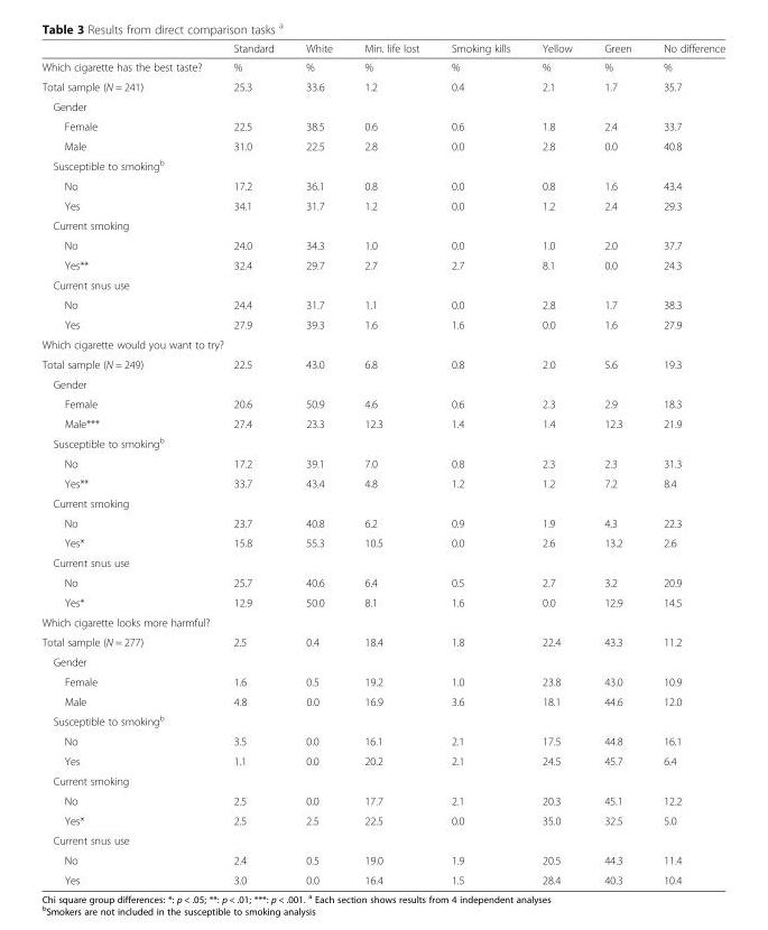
<table><thead><tr><td></td><td>Standard</td><td>White</td><td>Min. life lost</td><td>Smoking kills</td><td>Yellow</td><td>Green</td><td>No difference</td></tr></thead><tbody><tr><td>Which cigarette has the best taste?</td><td>%</td><td>%</td><td>%</td><td>%</td><td>%</td><td>%</td><td>%</td></tr><tr><td>Total sample (N = 241)</td><td>25.3</td><td>33.6</td><td>1.2</td><td>0.4</td><td>2.1</td><td>1.7</td><td>35.7</td></tr><tr><td colspan="8">Gender</td></tr><tr><td>Female</td><td>22.5</td><td>38.5</td><td>0.6</td><td>0.6</td><td>1.8</td><td>2.4</td><td>33.7</td></tr><tr><td>Male</td><td>31.0</td><td>22.5</td><td>2.8</td><td>0.0</td><td>2.8</td><td>0.0</td><td>40.8</td></tr><tr><td colspan="8">Susceptible to smoking<sup>b</sup></td></tr><tr><td>No</td><td>17.2</td><td>36.1</td><td>0.8</td><td>0.0</td><td>0.8</td><td>1.6</td><td>43.4</td></tr><tr><td>Yes</td><td>34.1</td><td>31.7</td><td>1.2</td><td>0.0</td><td>1.2</td><td>2.4</td><td>29.3</td></tr><tr><td colspan="8">Current smoking</td></tr><tr><td>No</td><td>24.0</td><td>34.3</td><td>1.0</td><td>0.0</td><td>1.0</td><td>2.0</td><td>37.7</td></tr><tr><td>Yes**</td><td>32.4</td><td>29.7</td><td>2.7</td><td>2.7</td><td>8.1</td><td>0.0</td><td>24.3</td></tr><tr><td colspan="8">Current snus use</td></tr><tr><td>No</td><td>24.4</td><td>31.7</td><td>1.1</td><td>0.0</td><td>2.8</td><td>1.7</td><td>38.3</td></tr><tr><td>Yes</td><td>27.9</td><td>39.3</td><td>1.6</td><td>1.6</td><td>0.0</td><td>1.6</td><td>27.9</td></tr><tr><td colspan="8">Which cigarette would you want to try?</td></tr><tr><td>Total sample (N = 249)</td><td>22.5</td><td>43.0</td><td>6.8</td><td>0.8</td><td>2.0</td><td>5.6</td><td>19.3</td></tr><tr><td colspan="8">Gender</td></tr><tr><td>Female</td><td>20.6</td><td>50.9</td><td>4.6</td><td>0.6</td><td>2.3</td><td>2.9</td><td>18.3</td></tr><tr><td>Male***</td><td>27.4</td><td>23.3</td><td>12.3</td><td>1.4</td><td>1.4</td><td>12.3</td><td>21.9</td></tr><tr><td colspan="8">Susceptible to smoking<sup>b</sup></td></tr><tr><td>No</td><td>17.2</td><td>39.1</td><td>7.0</td><td>0.8</td><td>2.3</td><td>2.3</td><td>31.3</td></tr><tr><td>Yes**</td><td>33.7</td><td>43.4</td><td>4.8</td><td>1.2</td><td>1.2</td><td>7.2</td><td>8.4</td></tr><tr><td colspan="8">Current smoking</td></tr><tr><td>No</td><td>23.7</td><td>40.8</td><td>6.2</td><td>0.9</td><td>1.9</td><td>4.3</td><td>22.3</td></tr><tr><td>Yes*</td><td>15.8</td><td>55.3</td><td>10.5</td><td>0.0</td><td>2.6</td><td>13.2</td><td>2.6</td></tr><tr><td colspan="8">Current snus use</td></tr><tr><td>No</td><td>25.7</td><td>40.6</td><td>6.4</td><td>0.5</td><td>2.7</td><td>3.2</td><td>20.9</td></tr><tr><td>Yes*</td><td>12.9</td><td>50.0</td><td>8.1</td><td>1.6</td><td>0.0</td><td>12.9</td><td>14.5</td></tr><tr><td colspan="8">Which cigarette looks more harmful?</td></tr><tr><td>Total sample (N = 277)</td><td>2.5</td><td>0.4</td><td>18.4</td><td>1.8</td><td>22.4</td><td>43.3</td><td>11.2</td></tr><tr><td colspan="8">Gender</td></tr><tr><td>Female</td><td>1.6</td><td>0.5</td><td>19.2</td><td>1.0</td><td>23.8</td><td>43.0</td><td>10.9</td></tr><tr><td>Male</td><td>4.8</td><td>0.0</td><td>16.9</td><td>3.6</td><td>18.1</td><td>44.6</td><td>12.0</td></tr><tr><td colspan="8">Susceptible to smoking<sup>b</sup></td></tr><tr><td>No</td><td>3.5</td><td>0.0</td><td>16.1</td><td>2.1</td><td>17.5</td><td>44.8</td><td>16.1</td></tr><tr><td>Yes</td><td>1.1</td><td>0.0</td><td>20.2</td><td>2.1</td><td>24.5</td><td>45.7</td><td>6.4</td></tr><tr><td colspan="8">Current smoking</td></tr><tr><td>No</td><td>2.5</td><td>0.0</td><td>17.7</td><td>2.1</td><td>20.3</td><td>45.1</td><td>12.2</td></tr><tr><td>Yes*</td><td>2.5</td><td>2.5</td><td>22.5</td><td>0.0</td><td>35.0</td><td>32.5</td><td>5.0</td></tr><tr><td colspan="8">Current snus use</td></tr><tr><td>No</td><td>2.4</td><td>0.5</td><td>19.0</td><td>1.9</td><td>20.5</td><td>44.3</td><td>11.4</td></tr><tr><td>Yes</td><td>3.0</td><td>0.0</td><td>16.4</td><td>1.5</td><td>28.4</td><td>40.3</td><td>10.4</td></tr></tbody></table>